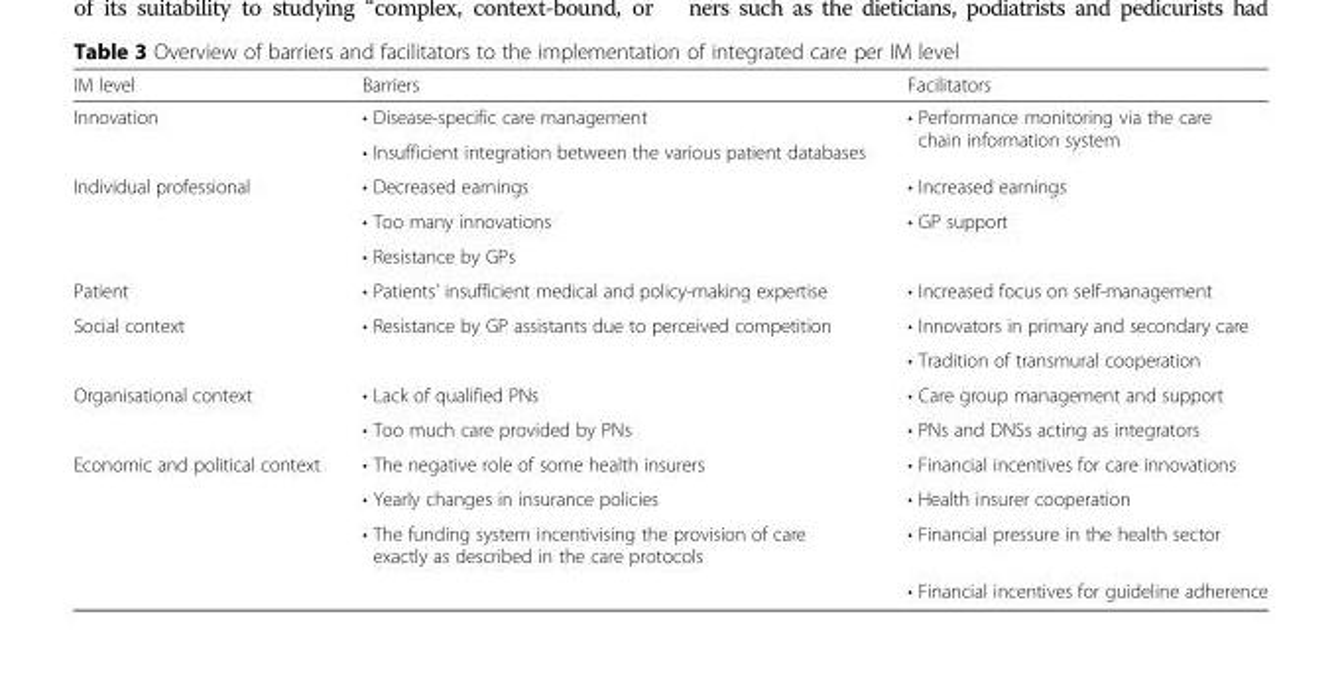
<table><thead><tr><td>IM level</td><td>Barriers</td><td>Facilitators</td></tr></thead><tbody><tr><td rowspan="2">Innovation</td><td>• Disease-specific care management</td><td rowspan="2">• Performance monitoring via the care chain information system</td></tr><tr><td>• Insufficient integration between the various patient databases</td></tr><tr><td rowspan="3">Individual professional</td><td>• Decreased earnings</td><td>• Increased earnings</td></tr><tr><td>• Too many innovations</td><td>• GP support</td></tr><tr><td>• Resistance by GPs</td><td></td></tr><tr><td>Patient</td><td>• Patients’ insufficient medical and policy-making expertise</td><td>• Increased focus on self-management</td></tr><tr><td rowspan="2">Social context</td><td>• Resistance by GP assistants due to perceived competition</td><td>• Innovators in primary and secondary care</td></tr><tr><td></td><td>• Tradition of transmural cooperation</td></tr><tr><td rowspan="2">Organisational context</td><td>• Lack of qualified PNs</td><td>• Care group management and support</td></tr><tr><td>• Too much care provided by PNs</td><td>• PNs and DNSs acting as integrators</td></tr><tr><td rowspan="4">Economic and political context</td><td>• The negative role of some health insurers</td><td>• Financial incentives for care innovations</td></tr><tr><td>• Yearly changes in insurance policies</td><td>• Health insurer cooperation</td></tr><tr><td>• The funding system incentivising the provision of care exactly as described in the care protocols</td><td>• Financial pressure in the health sector</td></tr><tr><td></td><td>• Financial incentives for guideline adherence</td></tr></tbody></table>